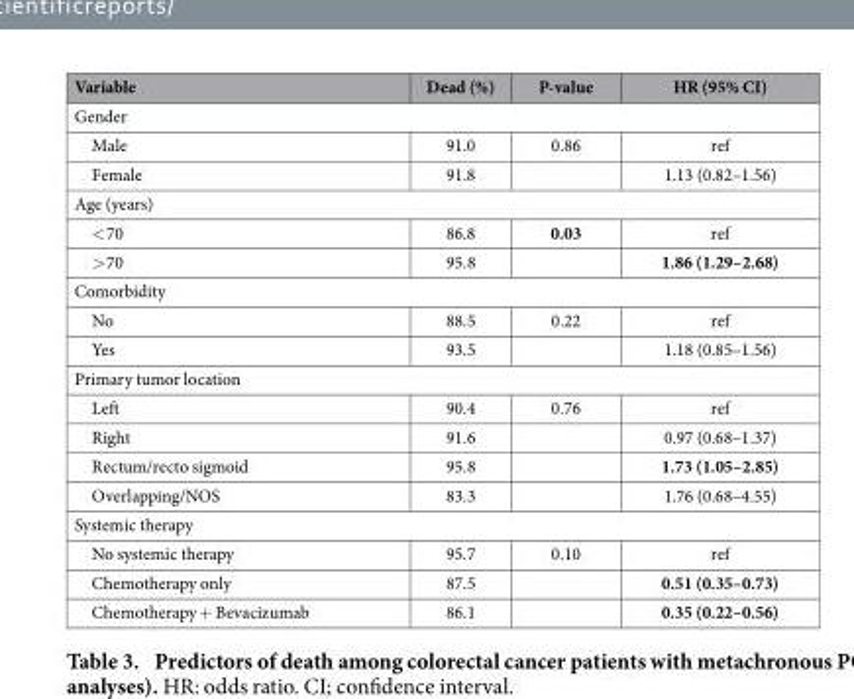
<table><thead><tr><td>Variable</td><td>Dead (%)</td><td>P-value</td><td>HR (95% CI)</td></tr></thead><tbody><tr><td colspan="4">Gender</td></tr><tr><td>Male</td><td>91.0</td><td>0.86</td><td>ref</td></tr><tr><td>Female</td><td>91.8</td><td></td><td>1.13 (0.82–1.56)</td></tr><tr><td colspan="4">Age (years)</td></tr><tr><td>&lt; 70</td><td>86.8</td><td>0.03</td><td>ref</td></tr><tr><td>&gt; 70</td><td>95.8</td><td></td><td>1.86 (1.29–2.68)</td></tr><tr><td colspan="4">Comorbidity</td></tr><tr><td>No</td><td>88.5</td><td>0.22</td><td>ref</td></tr><tr><td>Yes</td><td>93.5</td><td></td><td>1.18 (0.85–1.56)</td></tr><tr><td colspan="4">Primary tumor location</td></tr><tr><td>Left</td><td>90.4</td><td>0.76</td><td>ref</td></tr><tr><td>Right</td><td>91.6</td><td></td><td>0.97 (0.68–1.37)</td></tr><tr><td>Rectum/recto sigmoid</td><td>95.8</td><td></td><td>1.73 (1.05–2.85)</td></tr><tr><td>Overlapping/NOS</td><td>83.3</td><td></td><td>1.76 (0.68–4.55)</td></tr><tr><td colspan="4">Systemic therapy</td></tr><tr><td>No systemic therapy</td><td>95.7</td><td>0.10</td><td>ref</td></tr><tr><td>Chemotherapy only</td><td>87.5</td><td></td><td>0.51 (0.35–0.73)</td></tr><tr><td>Chemotherapy + Bevacizumab</td><td>86.1</td><td></td><td>0.35 (0.22–0.56)</td></tr></tbody></table>